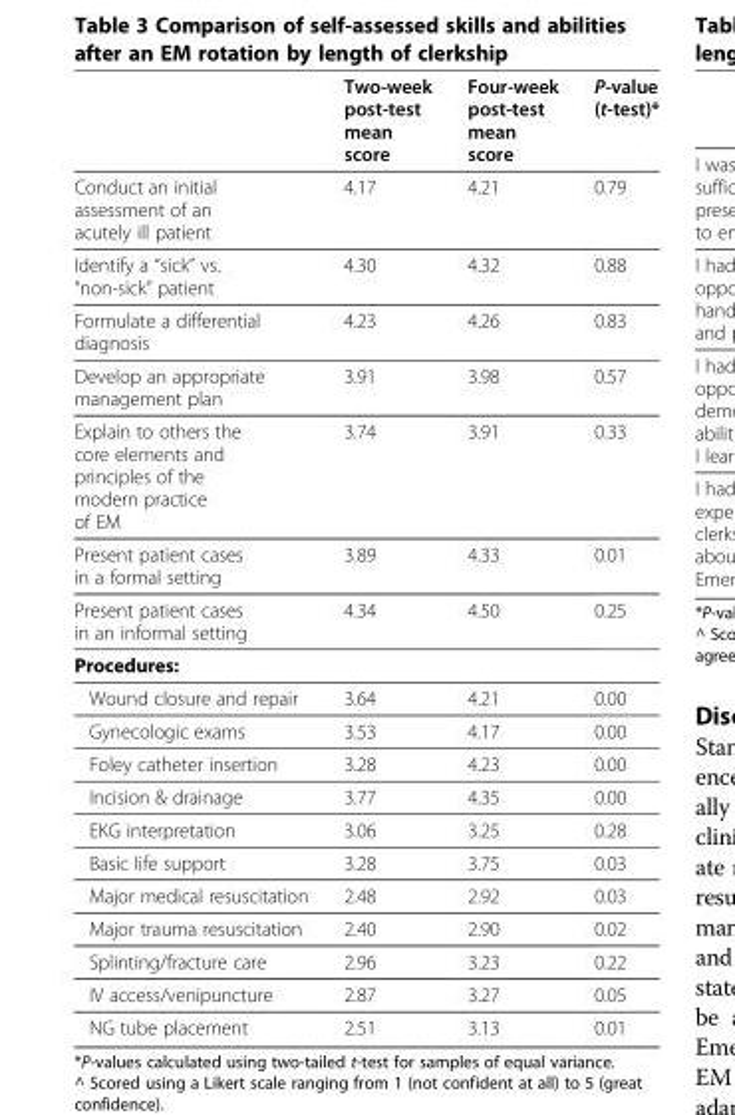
<table><thead><tr><td></td><td>Two-week post-test mean score</td><td>Four-week post-test mean score</td><td>P-value (t-test)*</td></tr></thead><tbody><tr><td>Conduct an initial assessment of an acutely ill patient</td><td>4.17</td><td>4.21</td><td>0.79</td></tr><tr><td>Identify a “sick” vs. “non-sick” patient</td><td>4.30</td><td>4.32</td><td>0.88</td></tr><tr><td>Formulate a differential diagnosis</td><td>4.23</td><td>4.26</td><td>0.83</td></tr><tr><td>Develop an appropriate management plan</td><td>3.91</td><td>3.98</td><td>0.57</td></tr><tr><td>Explain to others the core elements and principles of the modern practice of EM</td><td>3.74</td><td>3.91</td><td>0.33</td></tr><tr><td>Present patient cases in a formal setting</td><td>3.89</td><td>4.33</td><td>0.01</td></tr><tr><td>Present patient cases in an informal setting</td><td>4.34</td><td>4.50</td><td>0.25</td></tr><tr><td colspan="4">Procedures:</td></tr><tr><td>Wound closure and repair</td><td>3.64</td><td>4.21</td><td>0.00</td></tr><tr><td>Gynecologic exams</td><td>3.53</td><td>4.17</td><td>0.00</td></tr><tr><td>Foley catheter insertion</td><td>3.28</td><td>4.23</td><td>0.00</td></tr><tr><td>Incision &amp; drainage</td><td>3.77</td><td>4.35</td><td>0.00</td></tr><tr><td>EKG interpretation</td><td>3.06</td><td>3.25</td><td>0.28</td></tr><tr><td>Basic life support</td><td>3.28</td><td>3.75</td><td>0.03</td></tr><tr><td>Major medical resuscitation</td><td>2.48</td><td>2.92</td><td>0.03</td></tr><tr><td>Major trauma resuscitation</td><td>2.40</td><td>2.90</td><td>0.02</td></tr><tr><td>Splinting/fracture care</td><td>2.96</td><td>3.23</td><td>0.22</td></tr><tr><td>IV access/venipuncture</td><td>2.87</td><td>3.27</td><td>0.05</td></tr><tr><td>NG tube placement</td><td>2.51</td><td>3.13</td><td>0.01</td></tr></tbody></table>